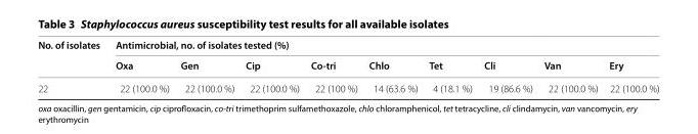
<table><thead><tr><td rowspan="2">No. of isolates</td><td colspan="9">Antimicrobial, no. of isolates tested (%)</td></tr><tr><td>Oxa</td><td>Gen</td><td>Cip</td><td>Co-tri</td><td>Chlo</td><td>Tet</td><td>Cli</td><td>Van</td><td>Ery</td></tr></thead><tbody><tr><td>22</td><td>22 (100.0 %)</td><td>22 (100.0 %)</td><td>22 (100.0 %)</td><td>22 (100 %)</td><td>14 (63.6 %)</td><td>4 (18.1 %)</td><td>19 (86.6 %)</td><td>22 (100.0 %)</td><td>22 (100.0 %)</td></tr></tbody></table>